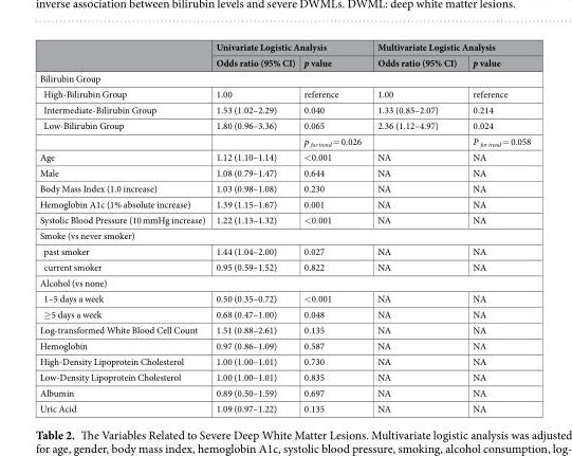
<table><thead><tr><td rowspan="2"></td><td colspan="2">Univariate Logistic Analysis</td><td colspan="2">Multivariate Logistic Analysis</td></tr><tr><td>Odds ratio (95% CI)</td><td>p value</td><td>Odds ratio (95% CI)</td><td>p value</td></tr></thead><tbody><tr><td colspan="5">Bilirubin Group</td></tr><tr><td>High-Bilirubin Group</td><td>1.00</td><td>reference</td><td>1.00</td><td>reference</td></tr><tr><td>Intermediate-Bilirubin Group</td><td>1.53 (1.02–2.29)</td><td>0.040</td><td>1.33 (0.85–2.07)</td><td>0.214</td></tr><tr><td rowspan="2">Low-Bilirubin Group</td><td>1.80 (0.96–3.36)</td><td>0.065</td><td>2.36 (1.12–4.97)</td><td>0.024</td></tr><tr><td></td><td>p <sub>for trend</sub> = 0.026</td><td></td><td>P <sub>for trend</sub> = 0.058</td></tr><tr><td>Age</td><td>1.12 (1.10–1.14)</td><td>&lt;0.001</td><td>NA</td><td>NA</td></tr><tr><td>Male</td><td>1.08 (0.79–1.47)</td><td>0.644</td><td>NA</td><td>NA</td></tr><tr><td>Body Mass Index (1.0 increase)</td><td>1.03 (0.98–1.08)</td><td>0.230</td><td>NA</td><td>NA</td></tr><tr><td>Hemoglobin A1c (1% absolute increase)</td><td>1.39 (1.15–1.67)</td><td>0.001</td><td>NA</td><td>NA</td></tr><tr><td>Systolic Blood Pressure (10 mmHg increase)</td><td>1.22 (1.13–1.32)</td><td>&lt;0.001</td><td>NA</td><td>NA</td></tr><tr><td colspan="5">Smoke (vs never smoker)</td></tr><tr><td>past smoker</td><td>1.44 (1.04–2.00)</td><td>0.027</td><td>NA</td><td>NA</td></tr><tr><td>current smoker</td><td>0.95 (0.59–1.52)</td><td>0.822</td><td>NA</td><td>NA</td></tr><tr><td colspan="5">Alcohol (vs none)</td></tr><tr><td>1–5 days a week</td><td>0.50 (0.35–0.72)</td><td>&lt;0.001</td><td>NA</td><td>NA</td></tr><tr><td>≥5 days a week</td><td>0.68 (0.47–1.00)</td><td>0.048</td><td>NA</td><td>NA</td></tr><tr><td>Log-transformed White Blood Cell Count</td><td>1.51 (0.88–2.61)</td><td>0.135</td><td>NA</td><td>NA</td></tr><tr><td>Hemoglobin</td><td>0.97 (0.86–1.09)</td><td>0.587</td><td>NA</td><td>NA</td></tr><tr><td>High-Density Lipoprotein Cholesterol</td><td>1.00 (1.00–1.01)</td><td>0.730</td><td>NA</td><td>NA</td></tr><tr><td>Low-Density Lipoprotein Cholesterol</td><td>1.00 (1.00–1.01)</td><td>0.835</td><td>NA</td><td>NA</td></tr><tr><td>Albumin</td><td>0.89 (0.50–1.59)</td><td>0.697</td><td>NA</td><td>NA</td></tr><tr><td>Uric Acid</td><td>1.09 (0.97–1.22)</td><td>0.135</td><td>NA</td><td>NA</td></tr></tbody></table>